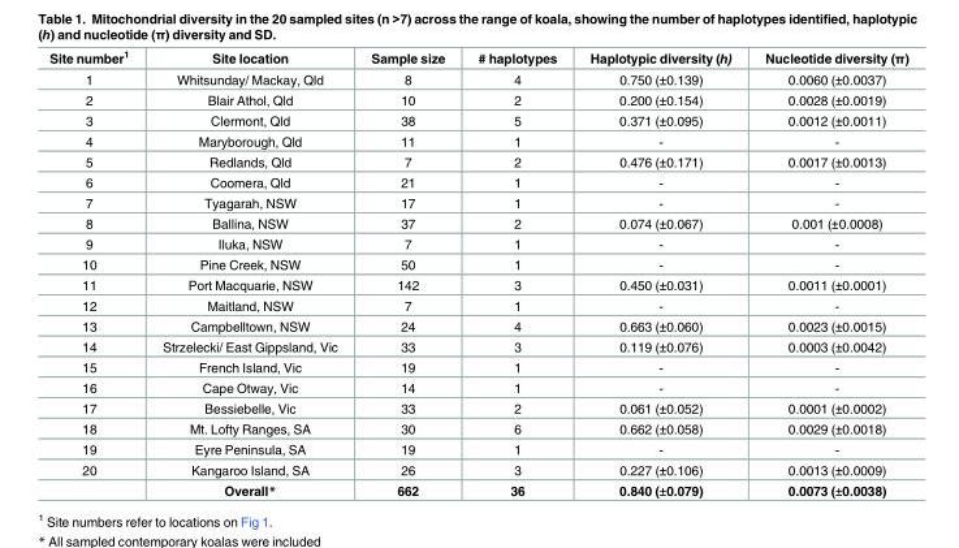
<table><thead><tr><td>Site number<sup>1</sup></td><td>Site location</td><td>Sample size</td><td># haplotypes</td><td>Haplotypic diversity (h)</td><td>Nucleotide diversity (π)</td></tr></thead><tbody><tr><td>1</td><td>Whitsunday/ Mackay, Qld</td><td>8</td><td>4</td><td>0.750 (±0.139)</td><td>0.0060 (±0.0037)</td></tr><tr><td>2</td><td>Blair Athol, Qld</td><td>10</td><td>2</td><td>0.200 (±0.154)</td><td>0.0028 (±0.0019)</td></tr><tr><td>3</td><td>Clermont, Qld</td><td>38</td><td>5</td><td>0.371 (±0.095)</td><td>0.0012 (±0.0011)</td></tr><tr><td>4</td><td>Maryborough, Qld</td><td>11</td><td>1</td><td>-</td><td>-</td></tr><tr><td>5</td><td>Redlands, Qld</td><td>7</td><td>2</td><td>0.476 (±0.171)</td><td>0.0017 (±0.0013)</td></tr><tr><td>6</td><td>Coomera, Qld</td><td>21</td><td>1</td><td>-</td><td>-</td></tr><tr><td>7</td><td>Tyagarah, NSW</td><td>17</td><td>1</td><td>-</td><td>-</td></tr><tr><td>8</td><td>Ballina, NSW</td><td>37</td><td>2</td><td>0.074 (±0.067)</td><td>0.001 (±0.0008)</td></tr><tr><td>9</td><td>Iluka, NSW</td><td>7</td><td>1</td><td>-</td><td>-</td></tr><tr><td>10</td><td>Pine Creek, NSW</td><td>50</td><td>1</td><td>-</td><td>-</td></tr><tr><td>11</td><td>Port Macquarie, NSW</td><td>142</td><td>3</td><td>0.450 (±0.031)</td><td>0.0011 (±0.0001)</td></tr><tr><td>12</td><td>Maitland, NSW</td><td>7</td><td>1</td><td>-</td><td>-</td></tr><tr><td>13</td><td>Campbelltown, NSW</td><td>24</td><td>4</td><td>0.663 (±0.060)</td><td>0.0023 (±0.0015)</td></tr><tr><td>14</td><td>Strzelecki/ East Gippsland, Vic</td><td>33</td><td>3</td><td>0.119 (±0.076)</td><td>0.0003 (±0.0042)</td></tr><tr><td>15</td><td>French Island, Vic</td><td>19</td><td>1</td><td>-</td><td>-</td></tr><tr><td>16</td><td>Cape Otway, Vic</td><td>14</td><td>1</td><td>-</td><td>-</td></tr><tr><td>17</td><td>Bessiebelle, Vic</td><td>33</td><td>2</td><td>0.061 (±0.052)</td><td>0.0001 (±0.0002)</td></tr><tr><td>18</td><td>Mt. Lofty Ranges, SA</td><td>30</td><td>6</td><td>0.662 (±0.058)</td><td>0.0029 (±0.0018)</td></tr><tr><td>19</td><td>Eyre Peninsula, SA</td><td>19</td><td>1</td><td>-</td><td>-</td></tr><tr><td rowspan="2">20</td><td>Kangaroo Island, SA</td><td>26</td><td>3</td><td>0.227 (±0.106)</td><td>0.0013 (±0.0009)</td></tr><tr><td>Overall*</td><td>662</td><td>36</td><td>0.840 (±0.079)</td><td>0.0073 (±0.0038)</td></tr></tbody></table>